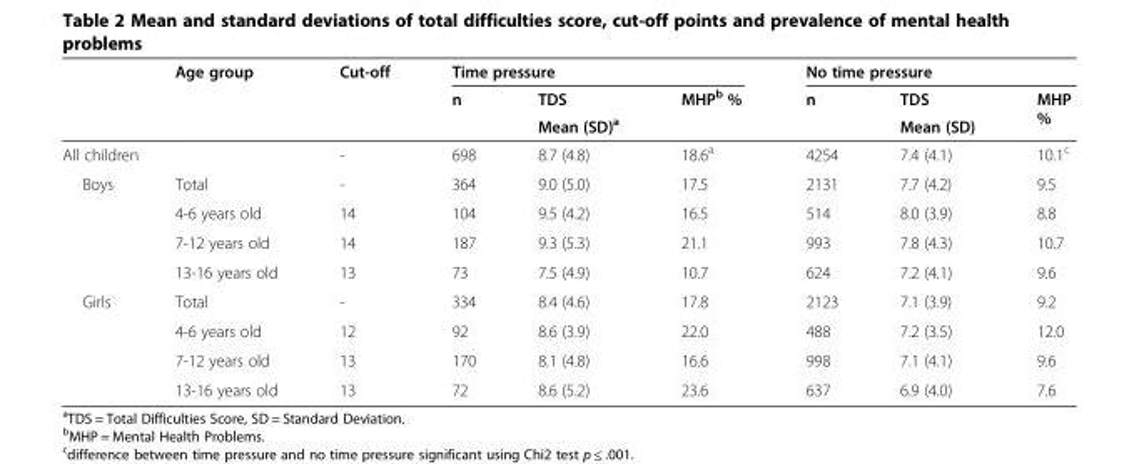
<table><thead><tr><td rowspan="3"></td><td rowspan="3">Age group</td><td rowspan="3">Cut-off</td><td colspan="3">Time pressure</td><td colspan="3">No time pressure</td></tr><tr><td rowspan="2">n</td><td rowspan="2">TDS Mean (SD)<sup>a</sup></td><td rowspan="2">MHP<sup>b</sup> %</td><td rowspan="2">n</td><td rowspan="2">TDS Mean (SD)</td><td rowspan="2">MHP %</td></tr><tr></tr></thead><tbody><tr><td colspan="2">All children</td><td>-</td><td>698</td><td>8.7 (4.8)</td><td>18.6<sup>a</sup></td><td>4254</td><td>7.4 (4.1)</td><td>10.1<sup>c</sup></td></tr><tr><td rowspan="4">Boys</td><td>Total</td><td>-</td><td>364</td><td>9.0 (5.0)</td><td>17.5</td><td>2131</td><td>7.7 (4.2)</td><td>9.5</td></tr><tr><td>4-6 years old</td><td>14</td><td>104</td><td>9.5 (4.2)</td><td>16.5</td><td>514</td><td>8.0 (3.9)</td><td>8.8</td></tr><tr><td>7-12 years old</td><td>14</td><td>187</td><td>9.3 (5.3)</td><td>21.1</td><td>993</td><td>7.8 (4.3)</td><td>10.7</td></tr><tr><td>13-16 years old</td><td>13</td><td>73</td><td>7.5 (4.9)</td><td>10.7</td><td>624</td><td>7.2 (4.1)</td><td>9.6</td></tr><tr><td rowspan="4">Girls</td><td>Total</td><td>-</td><td>334</td><td>8.4 (4.6)</td><td>17.8</td><td>2123</td><td>7.1 (3.9)</td><td>9.2</td></tr><tr><td>4-6 years old</td><td>12</td><td>92</td><td>8.6 (3.9)</td><td>22.0</td><td>488</td><td>7.2 (3.5)</td><td>12.0</td></tr><tr><td>7-12 years old</td><td>13</td><td>170</td><td>8.1 (4.8)</td><td>16.6</td><td>998</td><td>7.1 (4.1)</td><td>9.6</td></tr><tr><td>13-16 years old</td><td>13</td><td>72</td><td>8.6 (5.2)</td><td>23.6</td><td>637</td><td>6.9 (4.0)</td><td>7.6</td></tr></tbody></table>